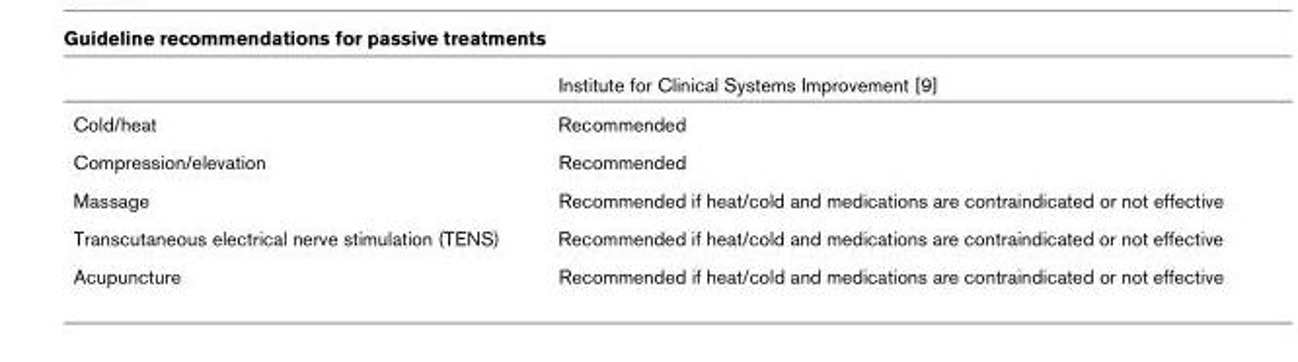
<table><thead><tr><td></td><td>Institute for Clinical Systems Improvement [9]</td></tr></thead><tbody><tr><td>Cold/heat</td><td>Recommended</td></tr><tr><td>Compression/elevation</td><td>Recommended</td></tr><tr><td>Massage</td><td>Recommended if heat/cold and medications are contraindicated or not effective</td></tr><tr><td>Transcutaneous electrical nerve stimulation (TENS)</td><td>Recommended if heat/cold and medications are contraindicated or not effective</td></tr><tr><td>Acupuncture</td><td>Recommended if heat/cold and medications are contraindicated or not effective</td></tr></tbody></table>